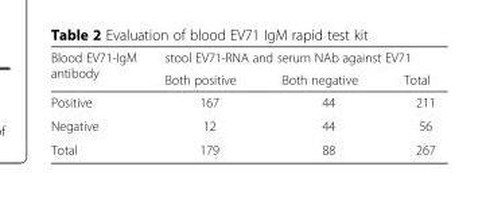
<table><thead><tr><td rowspan="2">Blood EV71-IgM antibody</td><td colspan="3">stool EV71-RNA and serum NAb against EV71</td></tr><tr><td>Both positive</td><td>Both negative</td><td>Total</td></tr></thead><tbody><tr><td>Positive</td><td>167</td><td>44</td><td>211</td></tr><tr><td>Negative</td><td>12</td><td>44</td><td>56</td></tr><tr><td>Total</td><td>179</td><td>88</td><td>267</td></tr></tbody></table>